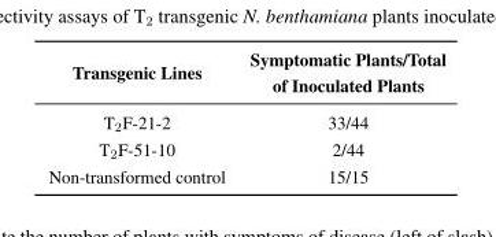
<table><thead><tr><td>Transgenic Lines</td><td>Symptomatic Plants/Total of Inoculated Plants</td></tr></thead><tbody><tr><td>T<sub>2</sub>F-21-2</td><td>33/44</td></tr><tr><td>T<sub>2</sub>F-51-10</td><td>2/44</td></tr><tr><td>Non-transformed control</td><td>15/15</td></tr></tbody></table>